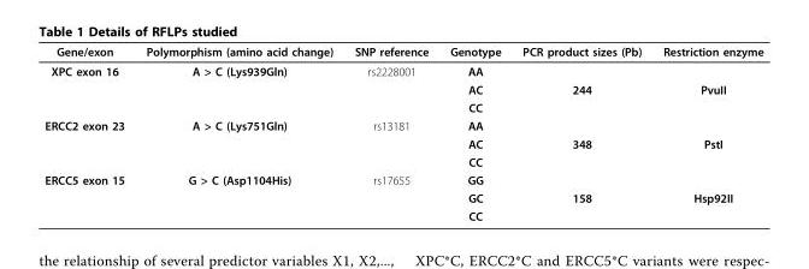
<table><thead><tr><td>Gene/exon</td><td>Polymorphism (amino acid change)</td><td>SNP reference</td><td>Genotype</td><td>PCR product sizes (Pb)</td><td>Restriction enzyme</td></tr></thead><tbody><tr><td rowspan="3">XPC exon 16</td><td>A &gt; C (Lys939Gln)</td><td>rs2228001</td><td>AA</td><td></td><td></td></tr><tr><td></td><td></td><td>AC</td><td>244</td><td>PvuII</td></tr><tr><td></td><td></td><td>CC</td><td></td><td></td></tr><tr><td rowspan="3">ERCC2 exon 23</td><td>A &gt; C (Lys751Gln)</td><td>rs13181</td><td>AA</td><td></td><td></td></tr><tr><td></td><td></td><td>AC</td><td>348</td><td>PstI</td></tr><tr><td></td><td></td><td>CC</td><td></td><td></td></tr><tr><td rowspan="3">ERCC5 exon 15</td><td>G &gt; C (Asp1104His)</td><td>rs17655</td><td>GG</td><td></td><td></td></tr><tr><td></td><td></td><td>GC</td><td>158</td><td>Hsp92II</td></tr><tr><td></td><td></td><td>CC</td><td></td><td></td></tr></tbody></table>